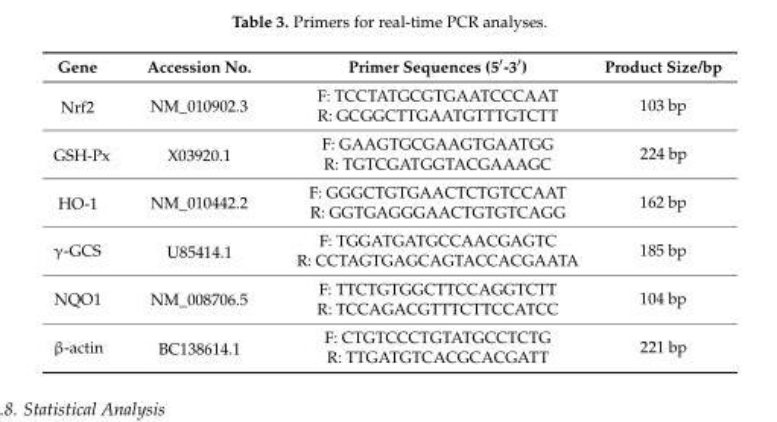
<table><thead><tr><td>Gene</td><td>Accession No.</td><td>Primer Sequences (5′-3′)</td><td>Product Size/bp</td></tr></thead><tbody><tr><td rowspan="2">Nrf2</td><td rowspan="2">NM_010902.3</td><td>F: TCCTATGCGTGAATCCCAAT</td><td rowspan="2">103 bp</td></tr><tr><td>R: GCGGCTTGAATGTTTGTCTT</td></tr><tr><td rowspan="2">GSH-Px</td><td rowspan="2">X03920.1</td><td>F: GAAGTGCGAAGTGAATGG</td><td rowspan="2">224 bp</td></tr><tr><td>R: TGTCGATGGTACGAAAGC</td></tr><tr><td rowspan="2">HO-1</td><td rowspan="2">NM_010442.2</td><td>F: GGGCTGTGAACTCTGTCCAAT</td><td rowspan="2">162 bp</td></tr><tr><td>R: GGTGAGGGAACTGTGTCAGG</td></tr><tr><td rowspan="2">γ-GCS</td><td rowspan="2">U85414.1</td><td>F: TGGATGATGCCAACGAGTC</td><td rowspan="2">185 bp</td></tr><tr><td>R: CCTAGTGAGCAGTACCACGAATA</td></tr><tr><td rowspan="2">NQO1</td><td rowspan="2">NM_008706.5</td><td>F: TTCTGTGGCTTCCAGGTCTT</td><td rowspan="2">104 bp</td></tr><tr><td>R: TCCAGACGTTTCTTCCATCC</td></tr><tr><td rowspan="2">β-actin</td><td rowspan="2">BC138614.1</td><td>F: CTGTCCCTGTATGCCTCTG</td><td rowspan="2">221 bp</td></tr><tr><td>R: TTGATGTCACGCACGATT</td></tr></tbody></table>